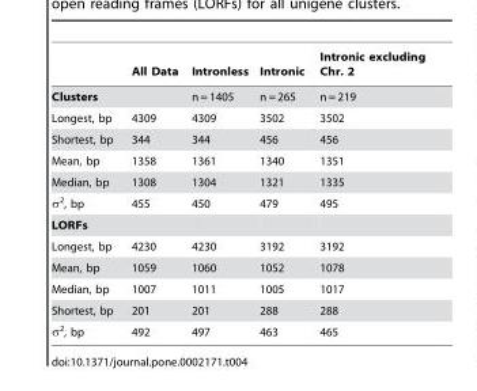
<table><thead><tr><td></td><td>All Data</td><td>Intronless</td><td>Intronic</td><td>Intronic excluding Chr. 2</td></tr></thead><tbody><tr><td>Clusters</td><td></td><td>n = 1405</td><td>n = 265</td><td>n = 219</td></tr><tr><td>Longest, bp</td><td>4309</td><td>4309</td><td>3502</td><td>3502</td></tr><tr><td>Shortest, bp</td><td>344</td><td>344</td><td>456</td><td>456</td></tr><tr><td>Mean, bp</td><td>1358</td><td>1361</td><td>1340</td><td>1351</td></tr><tr><td>Median, bp</td><td>1308</td><td>1304</td><td>1321</td><td>1335</td></tr><tr><td>σ<sup>2</sup>, bp</td><td>455</td><td>450</td><td>479</td><td>495</td></tr><tr><td colspan="5">LORFs</td></tr><tr><td>Longest, bp</td><td>4230</td><td>4230</td><td>3192</td><td>3192</td></tr><tr><td>Mean, bp</td><td>1059</td><td>1060</td><td>1052</td><td>1078</td></tr><tr><td>Median, bp</td><td>1007</td><td>1011</td><td>1005</td><td>1017</td></tr><tr><td>Shortest, bp</td><td>201</td><td>201</td><td>288</td><td>288</td></tr><tr><td>σ<sup>2</sup>, bp</td><td>492</td><td>497</td><td>463</td><td>465</td></tr></tbody></table>